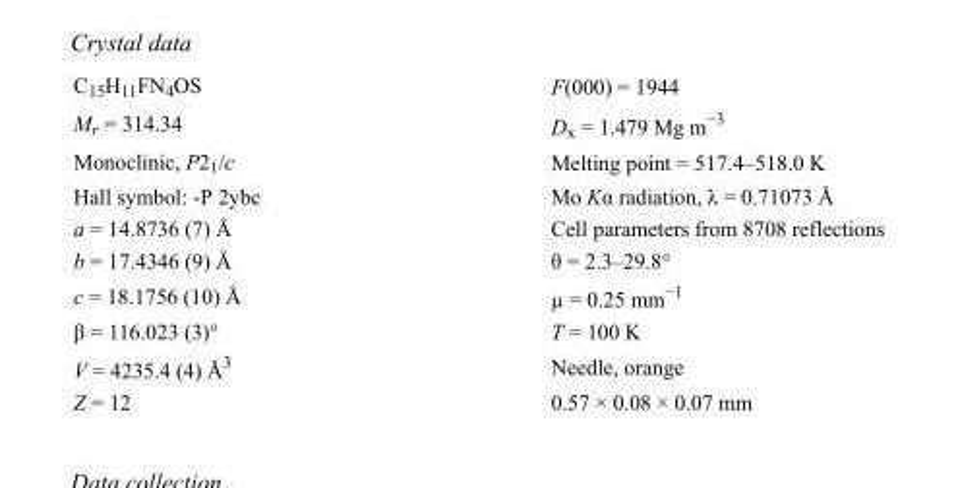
<table><tbody><tr><td>C<sub>15</sub>H<sub>11</sub>FN<sub>4</sub>OS</td><td>F(000) = 1944</td></tr><tr><td>M<sub>r</sub> = 314.34</td><td>D<sub>x</sub> = 1.479 Mg m<sup>−3</sup></td></tr><tr><td>Monoclinic, P2<sub>1</sub>/c</td><td>Melting point = 517.4–518.0 K</td></tr><tr><td>Hall symbol: -P 2ybc</td><td>Mo Kα radiation, λ = 0.71073 Å</td></tr><tr><td>a = 14.8736 (7) Å</td><td>Cell parameters from 8708 reflections</td></tr><tr><td>b = 17.4346 (9) Å</td><td>θ = 2.3–29.8°</td></tr><tr><td>c = 18.1756 (10) Å</td><td>µ = 0.25 mm<sup>−1</sup></td></tr><tr><td>β = 116.023 (3)°</td><td>T = 100 K</td></tr><tr><td>V = 4235.4 (4) Å<sup>3</sup></td><td>Needle, orange</td></tr><tr><td>Z = 12</td><td>0.57 × 0.08 × 0.07 mm</td></tr></tbody></table>